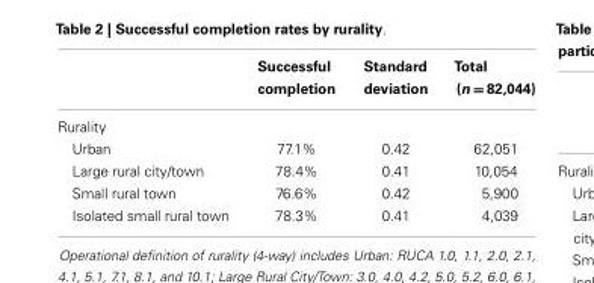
<table><thead><tr><td></td><td>Successful completion</td><td>Standard deviation</td><td>Total (n = 82,044)</td></tr></thead><tbody><tr><td colspan="4">Rurality</td></tr><tr><td>Urban</td><td>77.1%</td><td>0.42</td><td>62,051</td></tr><tr><td>Large rural city/town</td><td>78.4%</td><td>0.41</td><td>10,054</td></tr><tr><td>Small rural town</td><td>76.6%</td><td>0.42</td><td>5,900</td></tr><tr><td>Isolated small rural town</td><td>78.3%</td><td>0.41</td><td>4,039</td></tr></tbody></table>